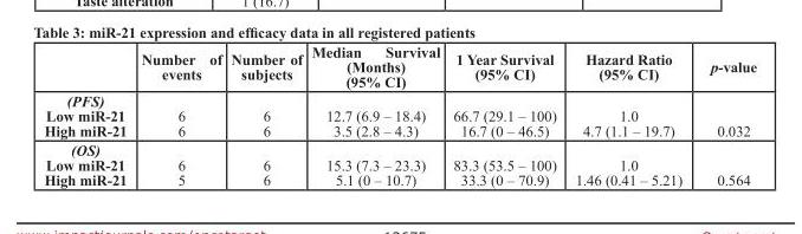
<table><thead><tr><td></td><td>Number of events</td><td>Number of subjects</td><td>Median Survival (Months) (95% CI)</td><td>1 Year Survival (95% CI)</td><td>Hazard Ratio (95% CI)</td><td>p-value</td></tr></thead><tbody><tr><td>(PFS) Low miR-21 High miR-21</td><td>6 6</td><td>6 6</td><td>12.7 (6.9 – 18.4) 3.5 (2.8 – 4.3)</td><td>66.7 (29.1 – 100) 16.7 (0 – 46.5)</td><td>1.0 4.7 (1.1 – 19.7)</td><td>0.032</td></tr><tr><td>(OS) Low miR-21 High miR-21</td><td>6 5</td><td>6 6</td><td>15.3 (7.3 – 23.3) 5.1 (0 – 10.7)</td><td>83.3 (53.5 – 100) 33.3 (0 – 70.9)</td><td>1.0 1.46 (0.41 – 5.21)</td><td>0.564</td></tr></tbody></table>